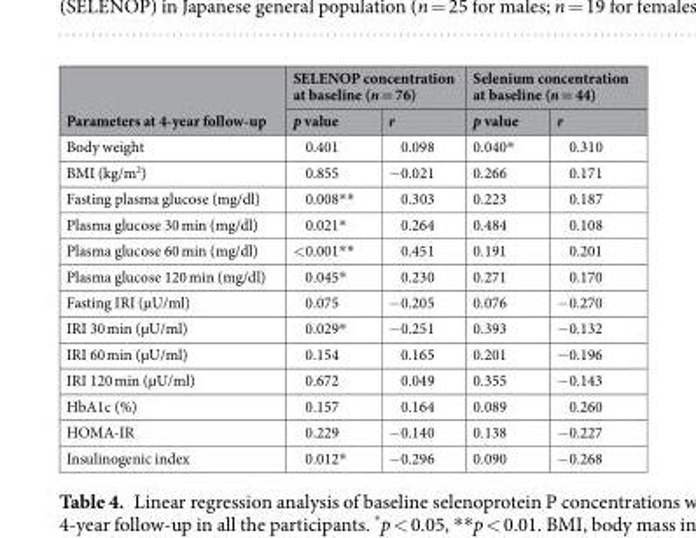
<table><thead><tr><td rowspan="2">Parameters at 4-year follow-up</td><td colspan="2">SELENOP concentration at baseline (n = 76)</td><td colspan="2">Selenium concentration at baseline (n = 44)</td></tr><tr><td>p value</td><td>r</td><td>p value</td><td>r</td></tr></thead><tbody><tr><td>Body weight</td><td>0.401</td><td>0.098</td><td>0.040*</td><td>0.310</td></tr><tr><td>BMI (kg/m<sup>2</sup>)</td><td>0.855</td><td>−0.021</td><td>0.266</td><td>0.171</td></tr><tr><td>Fasting plasma glucose (mg/dl)</td><td>0.008**</td><td>0.303</td><td>0.223</td><td>0.187</td></tr><tr><td>Plasma glucose 30 min (mg/dl)</td><td>0.021*</td><td>0.264</td><td>0.484</td><td>0.108</td></tr><tr><td>Plasma glucose 60 min (mg/dl)</td><td>&lt;0.001**</td><td>0.451</td><td>0.191</td><td>0.201</td></tr><tr><td>Plasma glucose 120 min (mg/dl)</td><td>0.045*</td><td>0.230</td><td>0.271</td><td>0.170</td></tr><tr><td>Fasting IRI (µU/ml)</td><td>0.075</td><td>−0.205</td><td>0.076</td><td>−0.270</td></tr><tr><td>IRI 30 min (µU/ml)</td><td>0.029*</td><td>−0.251</td><td>0.393</td><td>−0.132</td></tr><tr><td>IRI 60 min (µU/ml)</td><td>0.154</td><td>0.165</td><td>0.201</td><td>−0.196</td></tr><tr><td>IRI 120 min (µU/ml)</td><td>0.672</td><td>0.049</td><td>0.355</td><td>−0.143</td></tr><tr><td>HbA1c (%)</td><td>0.157</td><td>0.164</td><td>0.089</td><td>0.260</td></tr><tr><td>HOMA-IR</td><td>0.229</td><td>−0.140</td><td>0.138</td><td>−0.227</td></tr><tr><td>Insulinogenic index</td><td>0.012*</td><td>−0.296</td><td>0.090</td><td>−0.268</td></tr></tbody></table>